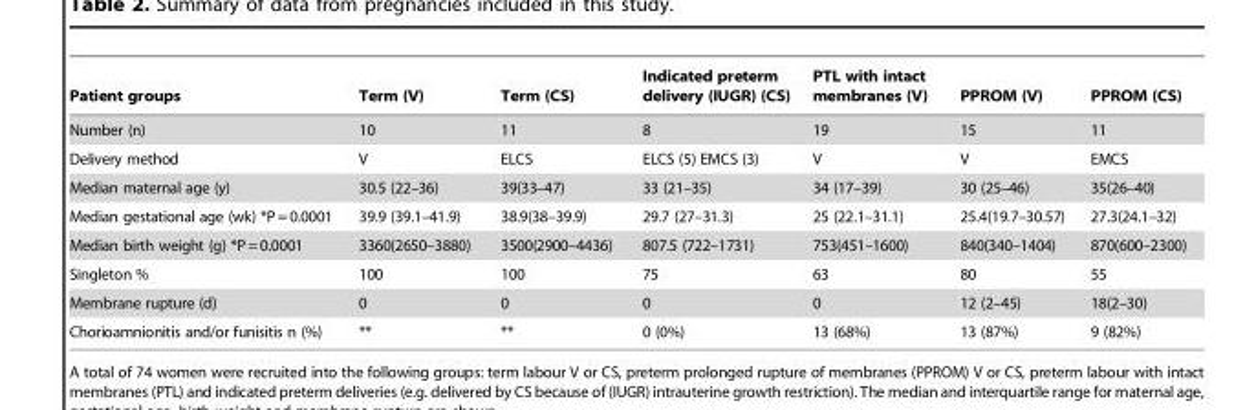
<table><thead><tr><td>Patient groups</td><td>Term (V)</td><td>Term (CS)</td><td>Indicated preterm delivery (IUGR) (CS)</td><td>PTL with intact membranes (V)</td><td>PPROM (V)</td><td>PPROM (CS)</td></tr></thead><tbody><tr><td>Number (n)</td><td>10</td><td>11</td><td>8</td><td>19</td><td>15</td><td>11</td></tr><tr><td>Delivery method</td><td>V</td><td>ELCS</td><td>ELCS (5) EMCS (3)</td><td>V</td><td>V</td><td>EMCS</td></tr><tr><td>Median maternal age (y)</td><td>30.5 (22–36)</td><td>39(33–47)</td><td>33 (21–35)</td><td>34 (17–39)</td><td>30 (25–46)</td><td>35(26–40)</td></tr><tr><td>Median gestational age (wk) *P=0.0001</td><td>39.9 (39.1–41.9)</td><td>38.9(38–39.9)</td><td>29.7 (27–31.3)</td><td>25 (22.1–31.1)</td><td>25.4(19.7–30.57)</td><td>27.3(24.1–32)</td></tr><tr><td>Median birth weight (g) *P=0.0001</td><td>3360(2650–3880)</td><td>3500(2900–4436)</td><td>807.5 (722–1731)</td><td>753(451–1600)</td><td>840(340–1404)</td><td>870(600–2300)</td></tr><tr><td>Singleton %</td><td>100</td><td>100</td><td>75</td><td>63</td><td>80</td><td>55</td></tr><tr><td>Membrane rupture (d)</td><td>0</td><td>0</td><td>0</td><td>0</td><td>12 (2–45)</td><td>18(2–30)</td></tr><tr><td>Chorioamnionitis and/or funisitis n (%)</td><td>**</td><td>**</td><td>0 (0%)</td><td>13 (68%)</td><td>13 (87%)</td><td>9 (82%)</td></tr></tbody></table>